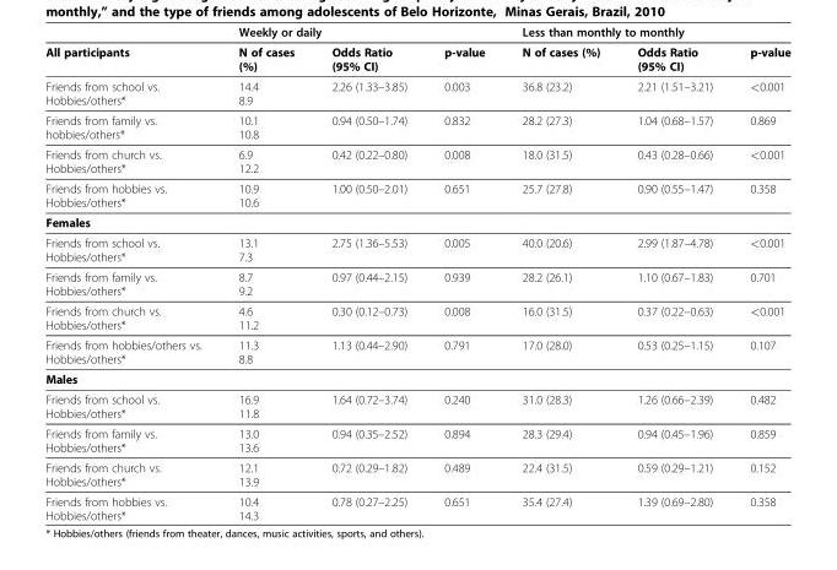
<table><tbody><tr><td>All participants</td><td>N of cases (%)</td><td>Odds Ratio (95% CI)</td><td>p-value</td><td>N of cases (%)</td><td>Odds Ratio (95% CI)</td><td>p-value</td></tr><tr><td>Friends from school vs. Hobbies/others*</td><td>14.4 8.9</td><td>2.26 (1.33–3.85)</td><td>0.003</td><td>36.8 (23.2)</td><td>2.21 (1.51–3.21)</td><td>&lt;0.001</td></tr><tr><td>Friends from family vs. hobbies/others*</td><td>10.1 10.8</td><td>0.94 (0.50–1.74)</td><td>0.832</td><td>28.2 (27.3)</td><td>1.04 (0.68–1.57)</td><td>0.869</td></tr><tr><td>Friends from church vs. Hobbies/others*</td><td>6.9 12.2</td><td>0.42 (0.22–0.80)</td><td>0.008</td><td>18.0 (31.5)</td><td>0.43 (0.28–0.66)</td><td>&lt;0.001</td></tr><tr><td>Friends from hobbies vs. Hobbies/others*</td><td>10.9 10.6</td><td>1.00 (0.50–2.01)</td><td>0.651</td><td>25.7 (27.8)</td><td>0.90 (0.55–1.47)</td><td>0.358</td></tr><tr><td colspan="7">Females</td></tr><tr><td>Friends from school vs. Hobbies/others*</td><td>13.1 7.3</td><td>2.75 (1.36–5.53)</td><td>0.005</td><td>40.0 (20.6)</td><td>2.99 (1.87–4.78)</td><td>&lt;0.001</td></tr><tr><td>Friends from family vs. Hobbies/others*</td><td>8.7 9.2</td><td>0.97 (0.44–2.15)</td><td>0.939</td><td>28.2 (26.1)</td><td>1.10 (0.67–1.83)</td><td>0.701</td></tr><tr><td>Friends from church vs. Hobbies/others*</td><td>4.6 11.2</td><td>0.30 (0.12–0.73)</td><td>0.008</td><td>16.0 (31.5)</td><td>0.37 (0.22–0.63)</td><td>&lt;0.001</td></tr><tr><td>Friends from hobbies/others vs. Hobbies/others*</td><td>11.3 8.8</td><td>1.13 (0.44–2.90)</td><td>0.791</td><td>17.0 (28.0)</td><td>0.53 (0.25–1.15)</td><td>0.107</td></tr><tr><td colspan="7">Males</td></tr><tr><td>Friends from school vs. Hobbies/others*</td><td>16.9 11.8</td><td>1.64 (0.72–3.74)</td><td>0.240</td><td>31.0 (28.3)</td><td>1.26 (0.66–2.39)</td><td>0.482</td></tr><tr><td>Friends from family vs. Hobbies/others*</td><td>13.0 13.6</td><td>0.94 (0.35–2.52)</td><td>0.894</td><td>28.3 (29.4)</td><td>0.94 (0.45–1.96)</td><td>0.859</td></tr><tr><td>Friends from church vs. Hobbies/others*</td><td>12.1 13.9</td><td>0.72 (0.29–1.82)</td><td>0.489</td><td>22.4 (31.5)</td><td>0.59 (0.29–1.21)</td><td>0.152</td></tr><tr><td>Friends from hobbies vs. Hobbies/others*</td><td>10.4 14.3</td><td>0.78 (0.27–2.25)</td><td>0.651</td><td>35.4 (27.4)</td><td>1.39 (0.69–2.80)</td><td>0.358</td></tr></tbody></table>